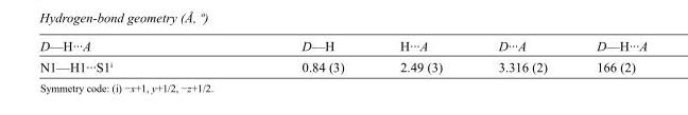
<table><tbody><tr><td>D—H···A</td><td>D—H</td><td>H···A</td><td>D···A</td><td>D—H···A</td></tr><tr><td>N1—H1···S1<sup>i</sup></td><td>0.84 (3)</td><td>2.49 (3)</td><td>3.316 (2)</td><td>166 (2)</td></tr></tbody></table>